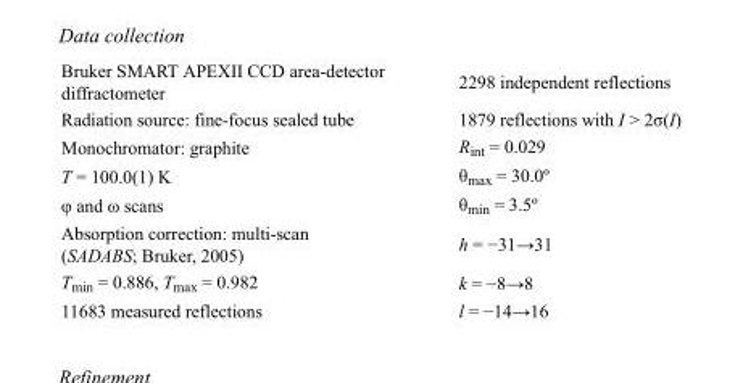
<table><tbody><tr><td>Bruker SMART APEXII CCD area-detector diffractometer</td><td>2298 independent reflections</td></tr><tr><td>Radiation source: fine-focus sealed tube</td><td>1879 reflections with I &gt; 2σ(I)</td></tr><tr><td>Monochromator: graphite</td><td>R<sub>int</sub> = 0.029</td></tr><tr><td>T = 100.0(1) K</td><td>θ<sub>max</sub> = 30.0º</td></tr><tr><td>φ and ω scans</td><td>θ<sub>min</sub> = 3.5º</td></tr><tr><td>Absorption correction: multi-scan (SADABS; Bruker, 2005)</td><td>h = −31→31</td></tr><tr><td>T<sub>min</sub> = 0.886, T<sub>max</sub> = 0.982</td><td>k = −8→8</td></tr><tr><td>11683 measured reflections</td><td>l = −14→16</td></tr></tbody></table>